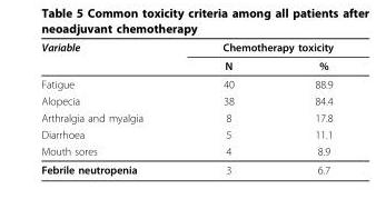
<table><thead><tr><td rowspan="2">Variable</td><td colspan="2">Chemotherapy toxicity</td></tr><tr><td>N</td><td>%</td></tr></thead><tbody><tr><td>Fatigue</td><td>40</td><td>88.9</td></tr><tr><td>Alopecia</td><td>38</td><td>84.4</td></tr><tr><td>Arthralgia and myalgia</td><td>8</td><td>17.8</td></tr><tr><td>Diarrhoea</td><td>5</td><td>11.1</td></tr><tr><td>Mouth sores</td><td>4</td><td>8.9</td></tr><tr><td>Febrile neutropenia</td><td>3</td><td>6.7</td></tr></tbody></table>